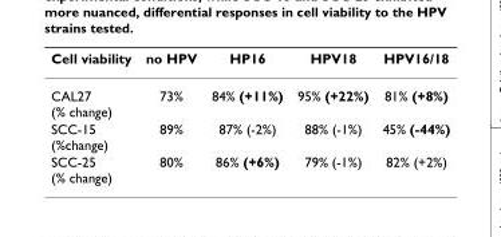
<table><thead><tr><td>Cell viability</td><td>no HPV</td><td>HP16</td><td>HPV18</td><td>HPV16/18</td></tr></thead><tbody><tr><td>CAL27 (% change)</td><td>73%</td><td>84% (+11%)</td><td>95% (+22%)</td><td>81% (+8%)</td></tr><tr><td>SCC-15 (%change)</td><td>89%</td><td>87% (-2%)</td><td>88% (-1%)</td><td>45% (-44%)</td></tr><tr><td>SCC-25 (% change)</td><td>80%</td><td>86% (+6%)</td><td>79% (-1%)</td><td>82% (+2%)</td></tr></tbody></table>